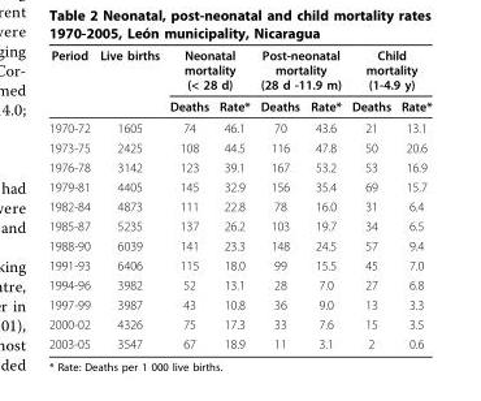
<table><thead><tr><td rowspan="2">Period</td><td rowspan="2">Live births</td><td colspan="2">Neonatal mortality (&lt; 28 d)</td><td colspan="2">Post-neonatal mortality (28 d -11.9 m)</td><td colspan="2">Child mortality (1-4.9 y)</td></tr><tr><td>Deaths</td><td>Rate*</td><td>Deaths</td><td>Rate*</td><td>Deaths</td><td>Rate*</td></tr></thead><tbody><tr><td>1970-72</td><td>1605</td><td>74</td><td>46.1</td><td>70</td><td>43.6</td><td>21</td><td>13.1</td></tr><tr><td>1973-75</td><td>2425</td><td>108</td><td>44.5</td><td>116</td><td>47.8</td><td>50</td><td>20.6</td></tr><tr><td>1976-78</td><td>3142</td><td>123</td><td>39.1</td><td>167</td><td>53.2</td><td>53</td><td>16.9</td></tr><tr><td>1979-81</td><td>4405</td><td>145</td><td>32.9</td><td>156</td><td>35.4</td><td>69</td><td>15.7</td></tr><tr><td>1982-84</td><td>4873</td><td>111</td><td>22.8</td><td>78</td><td>16.0</td><td>31</td><td>6.4</td></tr><tr><td>1985-87</td><td>5235</td><td>137</td><td>26.2</td><td>103</td><td>19.7</td><td>34</td><td>6.5</td></tr><tr><td>1988-90</td><td>6039</td><td>141</td><td>23.3</td><td>148</td><td>24.5</td><td>57</td><td>9.4</td></tr><tr><td>1991-93</td><td>6406</td><td>115</td><td>18.0</td><td>99</td><td>15.5</td><td>45</td><td>7.0</td></tr><tr><td>1994-96</td><td>3982</td><td>52</td><td>13.1</td><td>28</td><td>7.0</td><td>27</td><td>6.8</td></tr><tr><td>1997-99</td><td>3987</td><td>43</td><td>10.8</td><td>36</td><td>9.0</td><td>13</td><td>3.3</td></tr><tr><td>2000-02</td><td>4326</td><td>75</td><td>17.3</td><td>33</td><td>7.6</td><td>15</td><td>3.5</td></tr><tr><td>2003-05</td><td>3547</td><td>67</td><td>18.9</td><td>11</td><td>3.1</td><td>2</td><td>0.6</td></tr></tbody></table>